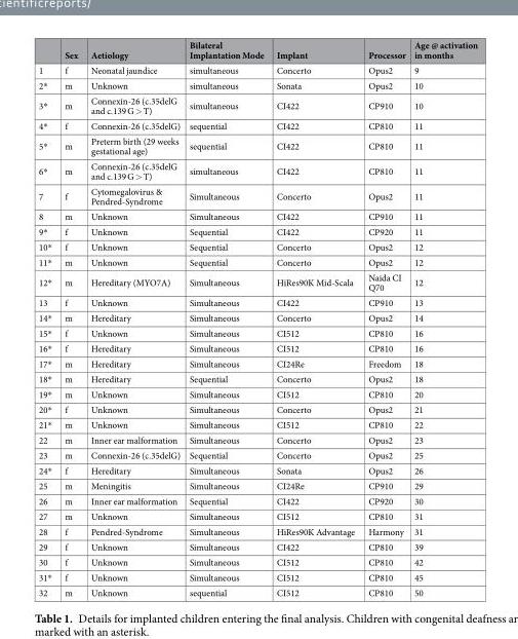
<table><thead><tr><td></td><td>Sex</td><td>Aetiology</td><td>Bilateral Implantation Mode</td><td>Implant</td><td>Processor</td><td>Age @ activation in months</td></tr></thead><tbody><tr><td>1</td><td>f</td><td>Neonatal jaundice</td><td>simultaneous</td><td>Concerto</td><td>Opus2</td><td>9</td></tr><tr><td>2*</td><td>m</td><td>Unknown</td><td>simultaneous</td><td>Sonata</td><td>Opus2</td><td>10</td></tr><tr><td>3*</td><td>m</td><td>Connexin-26 (c.35delG and c.139 G &gt; T)</td><td>simultaneous</td><td>CI422</td><td>CP910</td><td>10</td></tr><tr><td>4*</td><td>f</td><td>Connexin-26 (c.35delG)</td><td>sequential</td><td>CI422</td><td>CP810</td><td>11</td></tr><tr><td>5*</td><td>m</td><td>Preterm birth (29 weeks gestational age)</td><td>sequential</td><td>CI422</td><td>CP810</td><td>11</td></tr><tr><td>6*</td><td>m</td><td>Connexin-26 (c.35delG and c.139 G &gt; T)</td><td>simultaneous</td><td>CI422</td><td>CP810</td><td>11</td></tr><tr><td>7</td><td>f</td><td>Cytomegalovirus &amp; Pendred-Syndrome</td><td>Simultaneous</td><td>Concerto</td><td>Opus2</td><td>11</td></tr><tr><td>8</td><td>m</td><td>Unknown</td><td>Simultaneous</td><td>CI422</td><td>CP910</td><td>11</td></tr><tr><td>9*</td><td>f</td><td>Unknown</td><td>Sequential</td><td>CI422</td><td>CP920</td><td>11</td></tr><tr><td>10*</td><td>f</td><td>Unknown</td><td>Sequential</td><td>Concerto</td><td>Opus2</td><td>12</td></tr><tr><td>11*</td><td>m</td><td>Unknown</td><td>Sequential</td><td>Concerto</td><td>Opus2</td><td>12</td></tr><tr><td>12*</td><td>m</td><td>Hereditary (MYO7A)</td><td>Simultaneous</td><td>HiRes90K Mid-Scala</td><td>Naida CI Q70</td><td>12</td></tr><tr><td>13</td><td>f</td><td>Unknown</td><td>Simultaneous</td><td>CI422</td><td>CP910</td><td>13</td></tr><tr><td>14*</td><td>m</td><td>Hereditary</td><td>Simultaneous</td><td>Concerto</td><td>Opus2</td><td>14</td></tr><tr><td>15*</td><td>f</td><td>Unknown</td><td>Simultaneous</td><td>CI512</td><td>CP810</td><td>16</td></tr><tr><td>16*</td><td>f</td><td>Hereditary</td><td>Simultaneous</td><td>CI512</td><td>CP810</td><td>16</td></tr><tr><td>17*</td><td>m</td><td>Hereditary</td><td>Simultaneous</td><td>CI24Re</td><td>Freedom</td><td>18</td></tr><tr><td>18*</td><td>m</td><td>Hereditary</td><td>Sequential</td><td>Concerto</td><td>Opus2</td><td>18</td></tr><tr><td>19*</td><td>m</td><td>Unknown</td><td>Simultaneous</td><td>CI512</td><td>CP810</td><td>20</td></tr><tr><td>20*</td><td>f</td><td>Unknown</td><td>Simultaneous</td><td>Concerto</td><td>Opus2</td><td>21</td></tr><tr><td>21*</td><td>m</td><td>Unknown</td><td>Simultaneous</td><td>CI512</td><td>CP810</td><td>22</td></tr><tr><td>22</td><td>m</td><td>Inner ear malformation</td><td>Simultaneous</td><td>Concerto</td><td>Opus2</td><td>23</td></tr><tr><td>23</td><td>m</td><td>Connexin-26 (c.35delG)</td><td>Sequential</td><td>Concerto</td><td>Opus2</td><td>25</td></tr><tr><td>24*</td><td>f</td><td>Hereditary</td><td>Simultaneous</td><td>Sonata</td><td>Opus2</td><td>26</td></tr><tr><td>25</td><td>m</td><td>Meningitis</td><td>Simultaneous</td><td>CI24Re</td><td>CP910</td><td>29</td></tr><tr><td>26</td><td>m</td><td>Inner ear malformation</td><td>Sequential</td><td>CI422</td><td>CP920</td><td>30</td></tr><tr><td>27</td><td>m</td><td>Unknown</td><td>Simultaneous</td><td>CI512</td><td>CP810</td><td>31</td></tr><tr><td>28</td><td>f</td><td>Pendred-Syndrome</td><td>Simultaneous</td><td>HiRes90K Advantage</td><td>Harmony</td><td>31</td></tr><tr><td>29</td><td>f</td><td>Unknown</td><td>Simultaneous</td><td>CI422</td><td>CP810</td><td>39</td></tr><tr><td>30</td><td>f</td><td>Unknown</td><td>Simultaneous</td><td>CI512</td><td>CP810</td><td>42</td></tr><tr><td>31*</td><td>f</td><td>Unknown</td><td>Simultaneous</td><td>CI512</td><td>CP810</td><td>45</td></tr><tr><td>32</td><td>m</td><td>Unknown</td><td>sequential</td><td>CI512</td><td>CP810</td><td>50</td></tr></tbody></table>